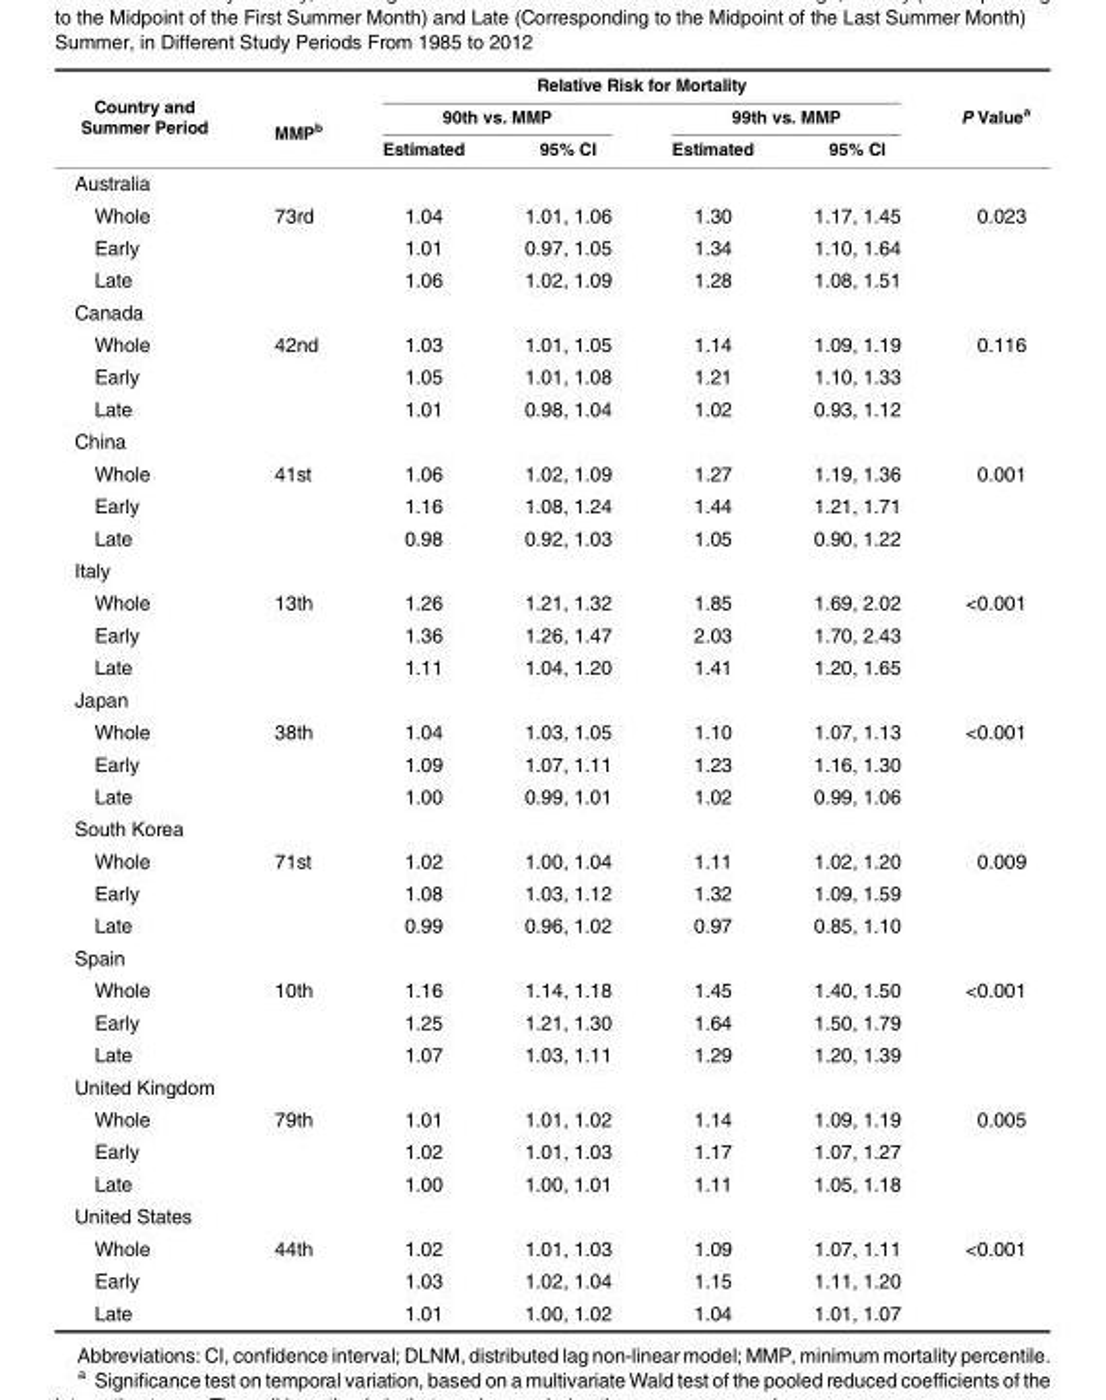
<table><thead><tr><td rowspan="3">Country and Summer Period</td><td rowspan="3">MMP<sup>b</sup></td><td colspan="4">Relative Risk for Mortality</td><td rowspan="3">P Value<sup>a</sup></td></tr><tr><td colspan="2">90th vs. MMP</td><td colspan="2">99th vs. MMP</td></tr><tr><td>Estimated</td><td>95% CI</td><td>Estimated</td><td>95% CI</td></tr></thead><tbody><tr><td colspan="7">Australia</td></tr><tr><td>Whole</td><td>73rd</td><td>1.04</td><td>1.01, 1.06</td><td>1.30</td><td>1.17, 1.45</td><td>0.023</td></tr><tr><td>Early</td><td></td><td>1.01</td><td>0.97, 1.05</td><td>1.34</td><td>1.10, 1.64</td><td></td></tr><tr><td>Late</td><td></td><td>1.06</td><td>1.02, 1.09</td><td>1.28</td><td>1.08, 1.51</td><td></td></tr><tr><td colspan="7">Canada</td></tr><tr><td>Whole</td><td>42nd</td><td>1.03</td><td>1.01, 1.05</td><td>1.14</td><td>1.09, 1.19</td><td>0.116</td></tr><tr><td>Early</td><td></td><td>1.05</td><td>1.01, 1.08</td><td>1.21</td><td>1.10, 1.33</td><td></td></tr><tr><td>Late</td><td></td><td>1.01</td><td>0.98, 1.04</td><td>1.02</td><td>0.93, 1.12</td><td></td></tr><tr><td colspan="7">China</td></tr><tr><td>Whole</td><td>41st</td><td>1.06</td><td>1.02, 1.09</td><td>1.27</td><td>1.19, 1.36</td><td>0.001</td></tr><tr><td>Early</td><td></td><td>1.16</td><td>1.08, 1.24</td><td>1.44</td><td>1.21, 1.71</td><td></td></tr><tr><td>Late</td><td></td><td>0.98</td><td>0.92, 1.03</td><td>1.05</td><td>0.90, 1.22</td><td></td></tr><tr><td colspan="7">Italy</td></tr><tr><td>Whole</td><td>13th</td><td>1.26</td><td>1.21, 1.32</td><td>1.85</td><td>1.69, 2.02</td><td>&lt;0.001</td></tr><tr><td>Early</td><td></td><td>1.36</td><td>1.26, 1.47</td><td>2.03</td><td>1.70, 2.43</td><td></td></tr><tr><td>Late</td><td></td><td>1.11</td><td>1.04, 1.20</td><td>1.41</td><td>1.20, 1.65</td><td></td></tr><tr><td colspan="7">Japan</td></tr><tr><td>Whole</td><td>38th</td><td>1.04</td><td>1.03, 1.05</td><td>1.10</td><td>1.07, 1.13</td><td>&lt;0.001</td></tr><tr><td>Early</td><td></td><td>1.09</td><td>1.07, 1.11</td><td>1.23</td><td>1.16, 1.30</td><td></td></tr><tr><td>Late</td><td></td><td>1.00</td><td>0.99, 1.01</td><td>1.02</td><td>0.99, 1.06</td><td></td></tr><tr><td colspan="7">South Korea</td></tr><tr><td>Whole</td><td>71st</td><td>1.02</td><td>1.00, 1.04</td><td>1.11</td><td>1.02, 1.20</td><td>0.009</td></tr><tr><td>Early</td><td></td><td>1.08</td><td>1.03, 1.12</td><td>1.32</td><td>1.09, 1.59</td><td></td></tr><tr><td>Late</td><td></td><td>0.99</td><td>0.96, 1.02</td><td>0.97</td><td>0.85, 1.10</td><td></td></tr><tr><td colspan="7">Spain</td></tr><tr><td>Whole</td><td>10th</td><td>1.16</td><td>1.14, 1.18</td><td>1.45</td><td>1.40, 1.50</td><td>&lt;0.001</td></tr><tr><td>Early</td><td></td><td>1.25</td><td>1.21, 1.30</td><td>1.64</td><td>1.50, 1.79</td><td></td></tr><tr><td>Late</td><td></td><td>1.07</td><td>1.03, 1.11</td><td>1.29</td><td>1.20, 1.39</td><td></td></tr><tr><td colspan="7">United Kingdom</td></tr><tr><td>Whole</td><td>79th</td><td>1.01</td><td>1.01, 1.02</td><td>1.14</td><td>1.09, 1.19</td><td>0.005</td></tr><tr><td>Early</td><td></td><td>1.02</td><td>1.01, 1.03</td><td>1.17</td><td>1.07, 1.27</td><td></td></tr><tr><td>Late</td><td></td><td>1.00</td><td>1.00, 1.01</td><td>1.11</td><td>1.05, 1.18</td><td></td></tr><tr><td colspan="7">United States</td></tr><tr><td>Whole</td><td>44th</td><td>1.02</td><td>1.01, 1.03</td><td>1.09</td><td>1.07, 1.11</td><td>&lt;0.001</td></tr><tr><td>Early</td><td></td><td>1.03</td><td>1.02, 1.04</td><td>1.15</td><td>1.11, 1.20</td><td></td></tr><tr><td>Late</td><td></td><td>1.01</td><td>1.00, 1.02</td><td>1.04</td><td>1.01, 1.07</td><td></td></tr></tbody></table>